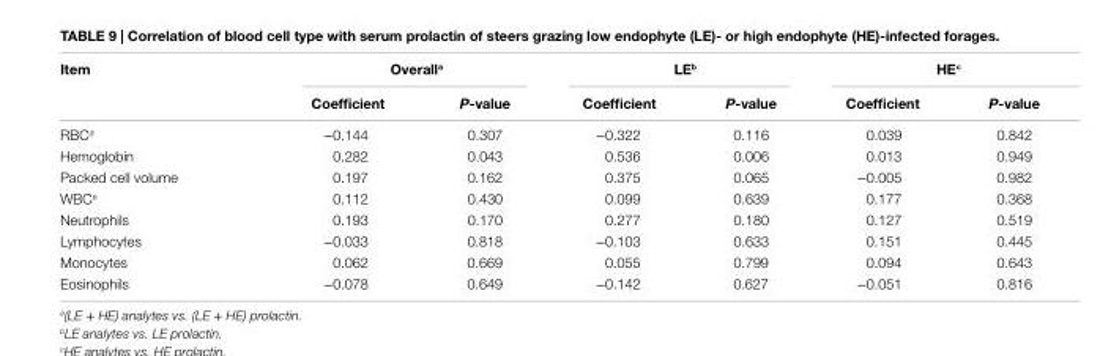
<table><thead><tr><td rowspan="2">item</td><td colspan="2">Overall<sup>a</sup></td><td colspan="2">le<sup>b</sup></td><td colspan="2">he<sup>c</sup></td></tr><tr><td>coefficient</td><td>P-value</td><td>coefficient</td><td>P-value</td><td>coefficient</td><td>P-value</td></tr></thead><tbody><tr><td>RBC<sup>d</sup></td><td>−0.144</td><td>0.307</td><td>−0.322</td><td>0.116</td><td>0.039</td><td>0.842</td></tr><tr><td>Hemoglobin</td><td>0.282</td><td>0.043</td><td>0.536</td><td>0.006</td><td>0.013</td><td>0.949</td></tr><tr><td>Packed cell volume</td><td>0.197</td><td>0.162</td><td>0.375</td><td>0.065</td><td>−0.005</td><td>0.982</td></tr><tr><td>WBC<sup>e</sup></td><td>0.112</td><td>0.430</td><td>0.099</td><td>0.639</td><td>0.177</td><td>0.368</td></tr><tr><td>Neutrophils</td><td>0.193</td><td>0.170</td><td>0.277</td><td>0.180</td><td>0.127</td><td>0.519</td></tr><tr><td>Lymphocytes</td><td>−0.033</td><td>0.818</td><td>−0.103</td><td>0.633</td><td>0.151</td><td>0.445</td></tr><tr><td>Monocytes</td><td>0.062</td><td>0.669</td><td>0.055</td><td>0.799</td><td>0.094</td><td>0.643</td></tr><tr><td>Eosinophils</td><td>−0.078</td><td>0.649</td><td>−0.142</td><td>0.627</td><td>−0.051</td><td>0.816</td></tr></tbody></table>